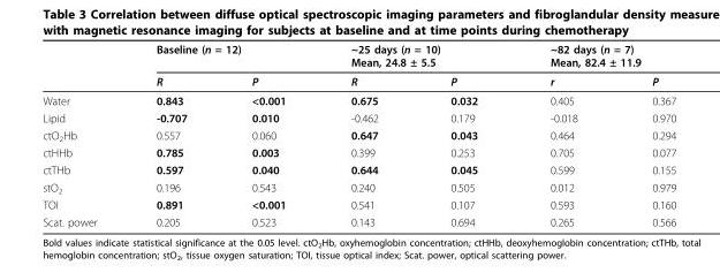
<table><thead><tr><td rowspan="2"></td><td colspan="2">Baseline (n = 12)</td><td colspan="2">~25 days (n = 10) Mean, 24.8 ± 5.5</td><td colspan="2">~82 days (n = 7) Mean, 82.4 ± 11.9</td></tr><tr><td>R</td><td>P</td><td>R</td><td>P</td><td>r</td><td>P</td></tr></thead><tbody><tr><td>Water</td><td>0.843</td><td>&lt;0.001</td><td>0.675</td><td>0.032</td><td>0.405</td><td>0.367</td></tr><tr><td>Lipid</td><td>-0.707</td><td>0.010</td><td>-0.462</td><td>0.179</td><td>-0.018</td><td>0.970</td></tr><tr><td>ctO<sub>2</sub>Hb</td><td>0.557</td><td>0.060</td><td>0.647</td><td>0.043</td><td>0.464</td><td>0.294</td></tr><tr><td>ctHHb</td><td>0.785</td><td>0.003</td><td>0.399</td><td>0.253</td><td>0.705</td><td>0.077</td></tr><tr><td>ctTHb</td><td>0.597</td><td>0.040</td><td>0.644</td><td>0.045</td><td>0.599</td><td>0.155</td></tr><tr><td>stO<sub>2</sub></td><td>0.196</td><td>0.543</td><td>0.240</td><td>0.505</td><td>0.012</td><td>0.979</td></tr><tr><td>TOI</td><td>0.891</td><td>&lt;0.001</td><td>0.541</td><td>0.107</td><td>0.593</td><td>0.160</td></tr><tr><td>Scat. power</td><td>0.205</td><td>0.523</td><td>0.143</td><td>0.694</td><td>0.265</td><td>0.566</td></tr></tbody></table>